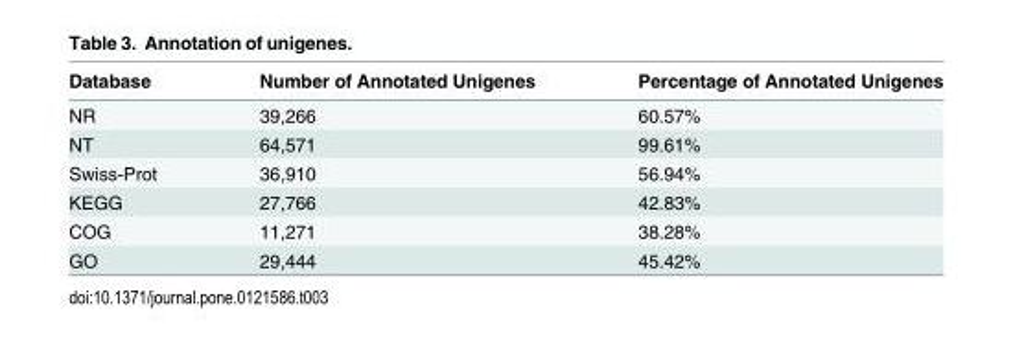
<table><thead><tr><td>Database</td><td>Number of Annotated Unigenes</td><td>Percentage of Annotated Unigenes</td></tr></thead><tbody><tr><td>NR</td><td>39,266</td><td>60.57%</td></tr><tr><td>NT</td><td>64,571</td><td>99.61%</td></tr><tr><td>Swiss-Prot</td><td>36,910</td><td>56.94%</td></tr><tr><td>KEGG</td><td>27,766</td><td>42.83%</td></tr><tr><td>COG</td><td>11,271</td><td>38.28%</td></tr><tr><td>GO</td><td>29,444</td><td>45.42%</td></tr></tbody></table>